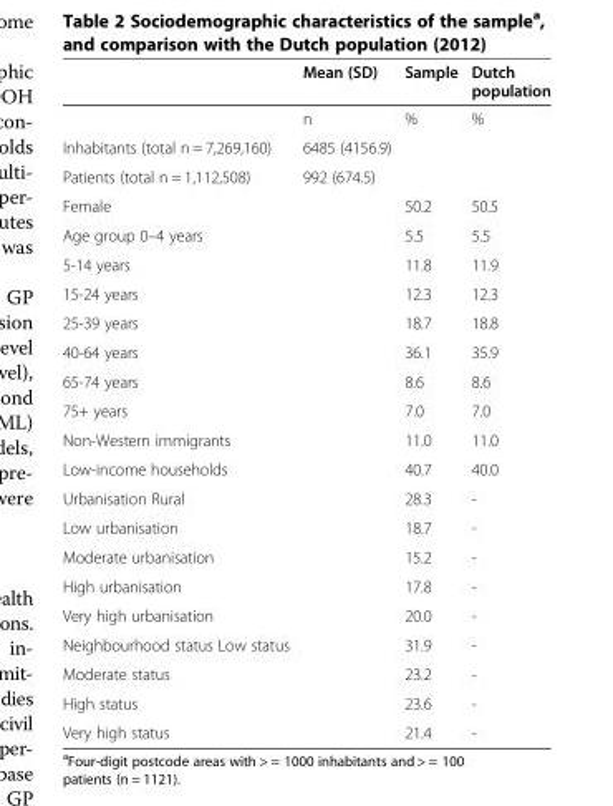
<table><thead><tr><td></td><td>Mean (SD)</td><td>Sample</td><td>Dutch population</td></tr></thead><tbody><tr><td></td><td>n</td><td>%</td><td>%</td></tr><tr><td>Inhabitants (total n = 7,269,160)</td><td>6485 (4156.9)</td><td></td><td></td></tr><tr><td>Patients (total n = 1,112,508)</td><td>992 (674.5)</td><td></td><td></td></tr><tr><td>Female</td><td></td><td>50.2</td><td>50.5</td></tr><tr><td>Age group 0–4 years</td><td></td><td>5.5</td><td>5.5</td></tr><tr><td>5-14 years</td><td></td><td>11.8</td><td>11.9</td></tr><tr><td>15-24 years</td><td></td><td>12.3</td><td>12.3</td></tr><tr><td>25-39 years</td><td></td><td>18.7</td><td>18.8</td></tr><tr><td>40-64 years</td><td></td><td>36.1</td><td>35.9</td></tr><tr><td>65-74 years</td><td></td><td>8.6</td><td>8.6</td></tr><tr><td>75+ years</td><td></td><td>7.0</td><td>7.0</td></tr><tr><td>Non-Western immigrants</td><td></td><td>11.0</td><td>11.0</td></tr><tr><td>Low-income households</td><td></td><td>40.7</td><td>40.0</td></tr><tr><td>Urbanisation Rural</td><td></td><td>28.3</td><td>-</td></tr><tr><td>Low urbanisation</td><td></td><td>18.7</td><td>-</td></tr><tr><td>Moderate urbanisation</td><td></td><td>15.2</td><td>-</td></tr><tr><td>High urbanisation</td><td></td><td>17.8</td><td>-</td></tr><tr><td>Very high urbanisation</td><td></td><td>20.0</td><td>-</td></tr><tr><td>Neighbourhood status Low status</td><td></td><td>31.9</td><td>-</td></tr><tr><td>Moderate status</td><td></td><td>23.2</td><td>-</td></tr><tr><td>High status</td><td></td><td>23.6</td><td>-</td></tr><tr><td>Very high status</td><td></td><td>21.4</td><td>-</td></tr></tbody></table>